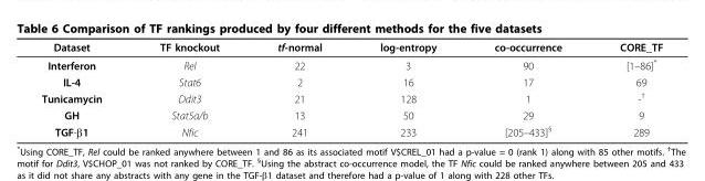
<table><thead><tr><td>Dataset</td><td>TF knockout</td><td>tf-normal</td><td>log-entropy</td><td>co-occurrence</td><td>CORE_TF</td></tr></thead><tbody><tr><td>Interferon</td><td>Rel</td><td>22</td><td>3</td><td>90</td><td>[1–86]*</td></tr><tr><td>IL-4</td><td>Stat6</td><td>2</td><td>16</td><td>17</td><td>69</td></tr><tr><td>Tunicamycin</td><td>Ddit3</td><td>21</td><td>128</td><td>1</td><td>-<sup>†</sup></td></tr><tr><td>GH</td><td>Stat5a/b</td><td>13</td><td>50</td><td>29</td><td>9</td></tr><tr><td>TGF-β1</td><td>Nfic</td><td>241</td><td>233</td><td>[205–433]§</td><td>289</td></tr></tbody></table>